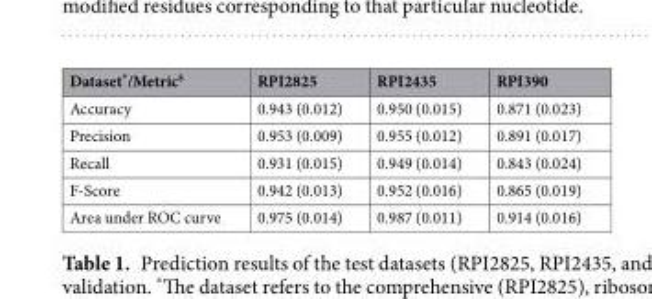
<table><thead><tr><td>Dataset*/Metric<sup>$</sup></td><td>RPI2825</td><td>RPI2435</td><td>RPI390</td></tr></thead><tbody><tr><td>Accuracy</td><td>0.943 (0.012)</td><td>0.950 (0.015)</td><td>0.871 (0.023)</td></tr><tr><td>Precision</td><td>0.953 (0.009)</td><td>0.955 (0.012)</td><td>0.891 (0.017)</td></tr><tr><td>Recall</td><td>0.931 (0.015)</td><td>0.949 (0.014)</td><td>0.843 (0.024)</td></tr><tr><td>F-Score</td><td>0.942 (0.013)</td><td>0.952 (0.016)</td><td>0.865 (0.019)</td></tr><tr><td>Area under ROC curve</td><td>0.975 (0.014)</td><td>0.987 (0.011)</td><td>0.914 (0.016)</td></tr></tbody></table>